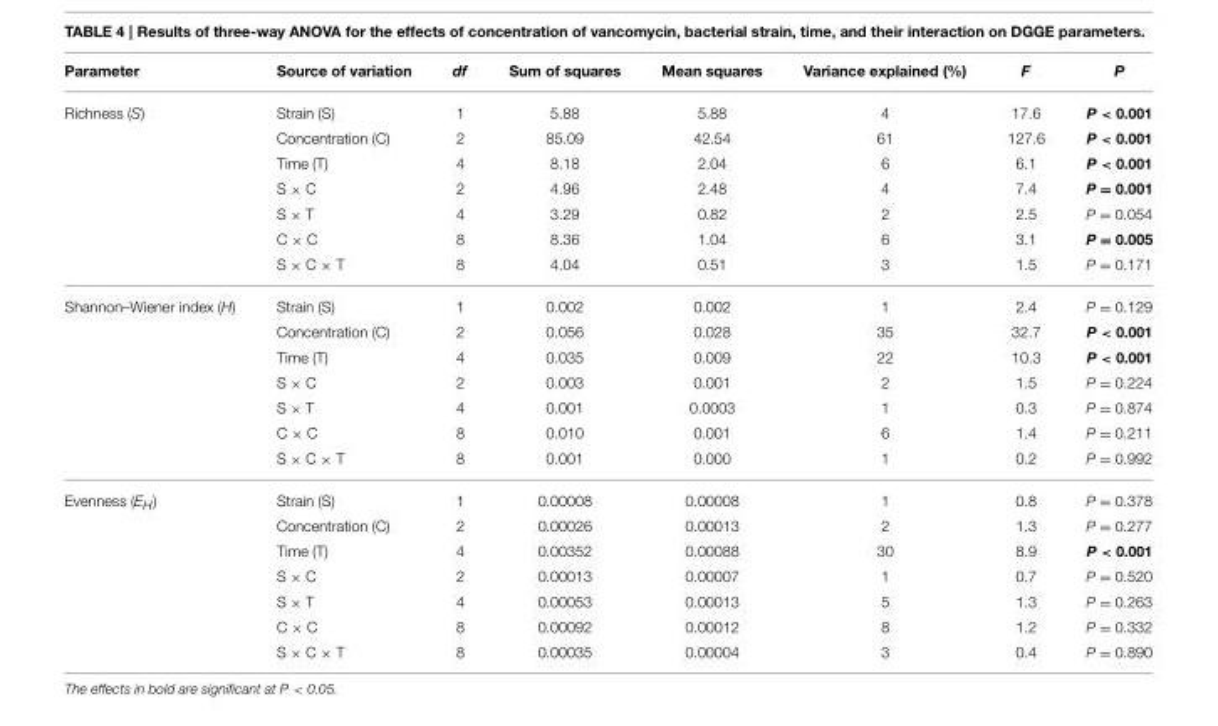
<table><thead><tr><td>Parameter</td><td>Source of variation</td><td>df</td><td>Sum of squares</td><td>Mean squares</td><td>Variance explained (%)</td><td>F</td><td>P</td></tr></thead><tbody><tr><td rowspan="7">Richness (S)</td><td>Strain (S)</td><td>1</td><td>5.88</td><td>5.88</td><td>4</td><td>17.6</td><td>P &lt; 0.001</td></tr><tr><td>Concentration (C)</td><td>2</td><td>85.09</td><td>42.54</td><td>61</td><td>127.6</td><td>P &lt; 0.001</td></tr><tr><td>Time (T)</td><td>4</td><td>8.18</td><td>2.04</td><td>6</td><td>6.1</td><td>P &lt; 0.001</td></tr><tr><td>S × C</td><td>2</td><td>4.96</td><td>2.48</td><td>4</td><td>7.4</td><td>P = 0.001</td></tr><tr><td>S × T</td><td>4</td><td>3.29</td><td>0.82</td><td>2</td><td>2.5</td><td>P = 0.054</td></tr><tr><td>C × C</td><td>8</td><td>8.36</td><td>1.04</td><td>6</td><td>3.1</td><td>P = 0.005</td></tr><tr><td>S × C × T</td><td>8</td><td>4.04</td><td>0.51</td><td>3</td><td>1.5</td><td>P = 0.171</td></tr><tr><td rowspan="7">Shannon–Wiener index (H)</td><td>Strain (S)</td><td>1</td><td>0.002</td><td>0.002</td><td>1</td><td>2.4</td><td>P = 0.129</td></tr><tr><td>Concentration (C)</td><td>2</td><td>0.056</td><td>0.028</td><td>35</td><td>32.7</td><td>P &lt; 0.001</td></tr><tr><td>Time (T)</td><td>4</td><td>0.035</td><td>0.009</td><td>22</td><td>10.3</td><td>P &lt; 0.001</td></tr><tr><td>S × C</td><td>2</td><td>0.003</td><td>0.001</td><td>2</td><td>1.5</td><td>P = 0.224</td></tr><tr><td>S × T</td><td>4</td><td>0.001</td><td>0.0003</td><td>1</td><td>0.3</td><td>P = 0.874</td></tr><tr><td>C × C</td><td>8</td><td>0.010</td><td>0.001</td><td>6</td><td>1.4</td><td>P = 0.211</td></tr><tr><td>S × C × T</td><td>8</td><td>0.001</td><td>0.000</td><td>1</td><td>0.2</td><td>P = 0.992</td></tr><tr><td rowspan="7">Evenness (E<sub>H</sub>)</td><td>Strain (S)</td><td>1</td><td>0.00008</td><td>0.00008</td><td>1</td><td>0.8</td><td>P = 0.378</td></tr><tr><td>Concentration (C)</td><td>2</td><td>0.00026</td><td>0.00013</td><td>2</td><td>1.3</td><td>P = 0.277</td></tr><tr><td>Time (T)</td><td>4</td><td>0.00352</td><td>0.00088</td><td>30</td><td>8.9</td><td>P &lt; 0.001</td></tr><tr><td>S × C</td><td>2</td><td>0.00013</td><td>0.00007</td><td>1</td><td>0.7</td><td>P = 0.520</td></tr><tr><td>S × T</td><td>4</td><td>0.00053</td><td>0.00013</td><td>5</td><td>1.3</td><td>P = 0.263</td></tr><tr><td>C × C</td><td>8</td><td>0.00092</td><td>0.00012</td><td>8</td><td>1.2</td><td>P = 0.332</td></tr><tr><td>S × C × T</td><td>8</td><td>0.00035</td><td>0.00004</td><td>3</td><td>0.4</td><td>P = 0.890</td></tr></tbody></table>